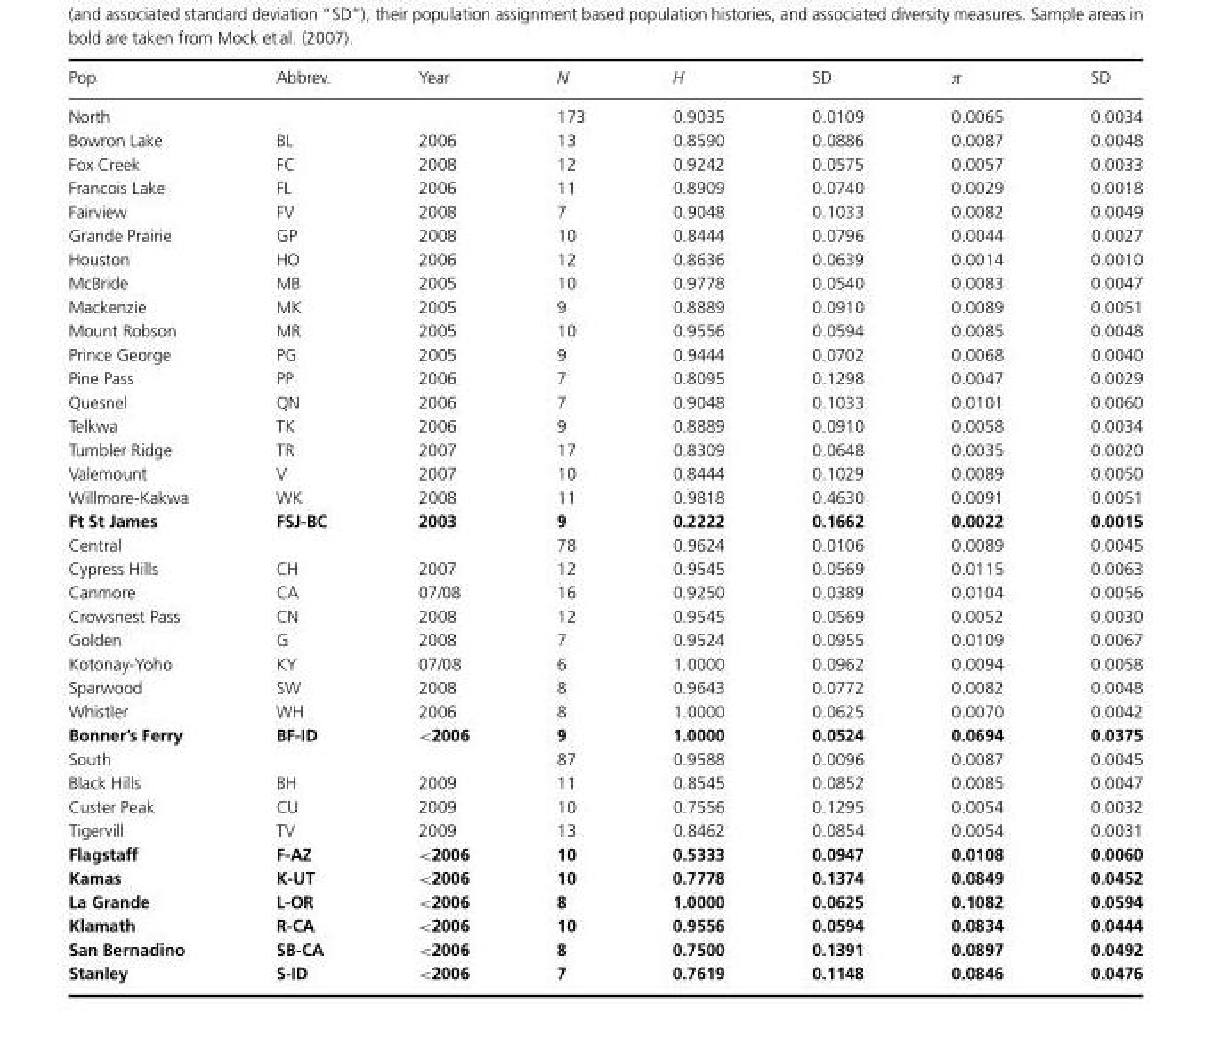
<table><thead><tr><td>Pop</td><td>Abbrev.</td><td>Year</td><td>N</td><td>H</td><td>SD</td><td>π</td><td>SD</td></tr></thead><tbody><tr><td>North</td><td></td><td></td><td>173</td><td>0.9035</td><td>0.0109</td><td>0.0065</td><td>0.0034</td></tr><tr><td>Bowron Lake</td><td>BL</td><td>2006</td><td>13</td><td>0.8590</td><td>0.0886</td><td>0.0087</td><td>0.0048</td></tr><tr><td>Fox Creek</td><td>FC</td><td>2008</td><td>12</td><td>0.9242</td><td>0.0575</td><td>0.0057</td><td>0.0033</td></tr><tr><td>Francois Lake</td><td>FL</td><td>2006</td><td>11</td><td>0.8909</td><td>0.0740</td><td>0.0029</td><td>0.0018</td></tr><tr><td>Fairview</td><td>FV</td><td>2008</td><td>7</td><td>0.9048</td><td>0.1033</td><td>0.0082</td><td>0.0049</td></tr><tr><td>Grande Prairie</td><td>GP</td><td>2008</td><td>10</td><td>0.8444</td><td>0.0796</td><td>0.0044</td><td>0.0027</td></tr><tr><td>Houston</td><td>HO</td><td>2006</td><td>12</td><td>0.8636</td><td>0.0639</td><td>0.0014</td><td>0.0010</td></tr><tr><td>McBride</td><td>MB</td><td>2005</td><td>10</td><td>0.9778</td><td>0.0540</td><td>0.0083</td><td>0.0047</td></tr><tr><td>Mackenzie</td><td>MK</td><td>2005</td><td>9</td><td>0.8889</td><td>0.0910</td><td>0.0089</td><td>0.0051</td></tr><tr><td>Mount Robson</td><td>MR</td><td>2005</td><td>10</td><td>0.9556</td><td>0.0594</td><td>0.0085</td><td>0.0048</td></tr><tr><td>Prince George</td><td>PG</td><td>2005</td><td>9</td><td>0.9444</td><td>0.0702</td><td>0.0068</td><td>0.0040</td></tr><tr><td>Pine Pass</td><td>PP</td><td>2006</td><td>7</td><td>0.8095</td><td>0.1298</td><td>0.0047</td><td>0.0029</td></tr><tr><td>Quesnel</td><td>QN</td><td>2006</td><td>7</td><td>0.9048</td><td>0.1033</td><td>0.0101</td><td>0.0060</td></tr><tr><td>Telkwa</td><td>TK</td><td>2006</td><td>9</td><td>0.8889</td><td>0.0910</td><td>0.0058</td><td>0.0034</td></tr><tr><td>Tumbler Ridge</td><td>TR</td><td>2007</td><td>17</td><td>0.8309</td><td>0.0648</td><td>0.0035</td><td>0.0020</td></tr><tr><td>Valemount</td><td>V</td><td>2007</td><td>10</td><td>0.8444</td><td>0.1029</td><td>0.0089</td><td>0.0050</td></tr><tr><td>Willmore-Kakwa</td><td>WK</td><td>2008</td><td>11</td><td>0.9818</td><td>0.4630</td><td>0.0091</td><td>0.0051</td></tr><tr><td>Ft St James</td><td>FSJ-BC</td><td>2003</td><td>9</td><td>0.2222</td><td>0.1662</td><td>0.0022</td><td>0.0015</td></tr><tr><td>Central</td><td></td><td></td><td>78</td><td>0.9624</td><td>0.0106</td><td>0.0089</td><td>0.0045</td></tr><tr><td>Cypress Hills</td><td>CH</td><td>2007</td><td>12</td><td>0.9545</td><td>0.0569</td><td>0.0115</td><td>0.0063</td></tr><tr><td>Canmore</td><td>CA</td><td>07/08</td><td>16</td><td>0.9250</td><td>0.0389</td><td>0.0104</td><td>0.0056</td></tr><tr><td>Crowsnest Pass</td><td>CN</td><td>2008</td><td>12</td><td>0.9545</td><td>0.0569</td><td>0.0052</td><td>0.0030</td></tr><tr><td>Golden</td><td>G</td><td>2008</td><td>7</td><td>0.9524</td><td>0.0955</td><td>0.0109</td><td>0.0067</td></tr><tr><td>Kotonay-Yoho</td><td>KY</td><td>07/08</td><td>6</td><td>1.0000</td><td>0.0962</td><td>0.0094</td><td>0.0058</td></tr><tr><td>Sparwood</td><td>SW</td><td>2008</td><td>8</td><td>0.9643</td><td>0.0772</td><td>0.0082</td><td>0.0048</td></tr><tr><td>Whistler</td><td>WH</td><td>2006</td><td>8</td><td>1.0000</td><td>0.0625</td><td>0.0070</td><td>0.0042</td></tr><tr><td>Bonner’s Ferry</td><td>BF-ID</td><td>&lt;2006</td><td>9</td><td>1.0000</td><td>0.0524</td><td>0.0694</td><td>0.0375</td></tr><tr><td>South</td><td></td><td></td><td>87</td><td>0.9588</td><td>0.0096</td><td>0.0087</td><td>0.0045</td></tr><tr><td>Black Hills</td><td>BH</td><td>2009</td><td>11</td><td>0.8545</td><td>0.0852</td><td>0.0085</td><td>0.0047</td></tr><tr><td>Custer Peak</td><td>CU</td><td>2009</td><td>10</td><td>0.7556</td><td>0.1295</td><td>0.0054</td><td>0.0032</td></tr><tr><td>Tigervill</td><td>TV</td><td>2009</td><td>13</td><td>0.8462</td><td>0.0854</td><td>0.0054</td><td>0.0031</td></tr><tr><td>Flagstaff</td><td>F-AZ</td><td>&lt;2006</td><td>10</td><td>0.5333</td><td>0.0947</td><td>0.0108</td><td>0.0060</td></tr><tr><td>Kamas</td><td>K-UT</td><td>&lt;2006</td><td>10</td><td>0.7778</td><td>0.1374</td><td>0.0849</td><td>0.0452</td></tr><tr><td>La Grande</td><td>L-OR</td><td>&lt;2006</td><td>8</td><td>1.0000</td><td>0.0625</td><td>0.1082</td><td>0.0594</td></tr><tr><td>Klamath</td><td>R-CA</td><td>&lt;2006</td><td>10</td><td>0.9556</td><td>0.0594</td><td>0.0834</td><td>0.0444</td></tr><tr><td>San Bernadino</td><td>SB-CA</td><td>&lt;2006</td><td>8</td><td>0.7500</td><td>0.1391</td><td>0.0897</td><td>0.0492</td></tr><tr><td>Stanley</td><td>S-ID</td><td>&lt;2006</td><td>7</td><td>0.7619</td><td>0.1148</td><td>0.0846</td><td>0.0476</td></tr></tbody></table>